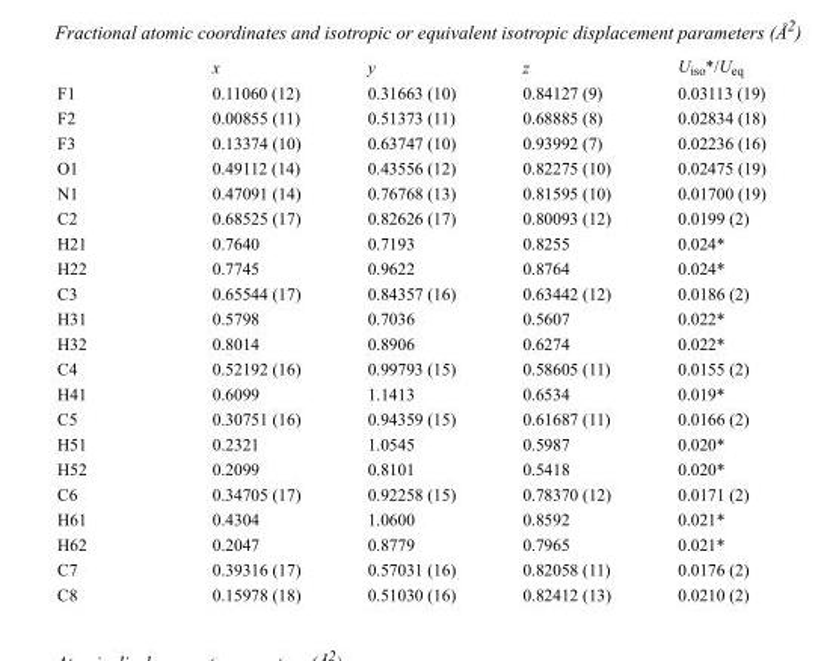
<table><thead><tr><td></td><td>x</td><td>y</td><td>z</td><td>U<sub>iso</sub>*/U<sub>eq</sub></td></tr></thead><tbody><tr><td>F1</td><td>0.11060 (12)</td><td>0.31663 (10)</td><td>0.84127 (9)</td><td>0.03113 (19)</td></tr><tr><td>F2</td><td>0.00855 (11)</td><td>0.51373 (11)</td><td>0.68885 (8)</td><td>0.02834 (18)</td></tr><tr><td>F3</td><td>0.13374 (10)</td><td>0.63747 (10)</td><td>0.93992 (7)</td><td>0.02236 (16)</td></tr><tr><td>O1</td><td>0.49112 (14)</td><td>0.43556 (12)</td><td>0.82275 (10)</td><td>0.02475 (19)</td></tr><tr><td>N1</td><td>0.47091 (14)</td><td>0.76768 (13)</td><td>0.81595 (10)</td><td>0.01700 (19)</td></tr><tr><td>C2</td><td>0.68525 (17)</td><td>0.82626 (17)</td><td>0.80093 (12)</td><td>0.0199 (2)</td></tr><tr><td>H21</td><td>0.7640</td><td>0.7193</td><td>0.8255</td><td>0.024*</td></tr><tr><td>H22</td><td>0.7745</td><td>0.9622</td><td>0.8764</td><td>0.024*</td></tr><tr><td>C3</td><td>0.65544 (17)</td><td>0.84357 (16)</td><td>0.63442 (12)</td><td>0.0186 (2)</td></tr><tr><td>H31</td><td>0.5798</td><td>0.7036</td><td>0.5607</td><td>0.022*</td></tr><tr><td>H32</td><td>0.8014</td><td>0.8906</td><td>0.6274</td><td>0.022*</td></tr><tr><td>C4</td><td>0.52192 (16)</td><td>0.99793 (15)</td><td>0.58605 (11)</td><td>0.0155 (2)</td></tr><tr><td>H41</td><td>0.6099</td><td>1.1413</td><td>0.6534</td><td>0.019*</td></tr><tr><td>C5</td><td>0.30751 (16)</td><td>0.94359 (15)</td><td>0.61687 (11)</td><td>0.0166 (2)</td></tr><tr><td>H51</td><td>0.2321</td><td>1.0545</td><td>0.5987</td><td>0.020*</td></tr><tr><td>H52</td><td>0.2099</td><td>0.8101</td><td>0.5418</td><td>0.020*</td></tr><tr><td>C6</td><td>0.34705 (17)</td><td>0.92258 (15)</td><td>0.78370 (12)</td><td>0.0171 (2)</td></tr><tr><td>H61</td><td>0.4304</td><td>1.0600</td><td>0.8592</td><td>0.021*</td></tr><tr><td>H62</td><td>0.2047</td><td>0.8779</td><td>0.7965</td><td>0.021*</td></tr><tr><td>C7</td><td>0.39316 (17)</td><td>0.57031 (16)</td><td>0.82058 (11)</td><td>0.0176 (2)</td></tr><tr><td>C8</td><td>0.15978 (18)</td><td>0.51030 (16)</td><td>0.82412 (13)</td><td>0.0210 (2)</td></tr></tbody></table>